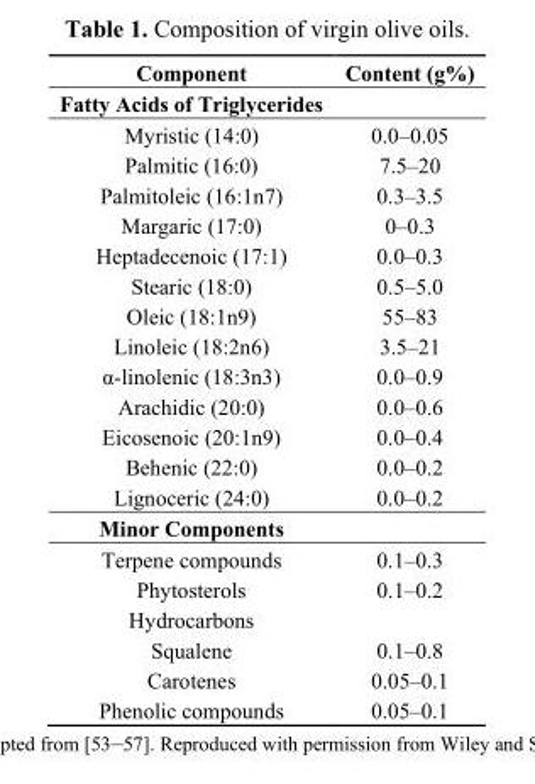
<table><thead><tr><td>Component</td><td>Content (g%)</td></tr></thead><tbody><tr><td colspan="2">Fatty Acids of Triglycerides</td></tr><tr><td>Myristic (14:0)</td><td>0.0–0.05</td></tr><tr><td>Palmitic (16:0)</td><td>7.5–20</td></tr><tr><td>Palmitoleic (16:1n7)</td><td>0.3–3.5</td></tr><tr><td>Margaric (17:0)</td><td>0–0.3</td></tr><tr><td>Heptadecenoic (17:1)</td><td>0.0–0.3</td></tr><tr><td>Stearic (18:0)</td><td>0.5–5.0</td></tr><tr><td>Oleic (18:1n9)</td><td>55–83</td></tr><tr><td>Linoleic (18:2n6)</td><td>3.5–21</td></tr><tr><td>α-linolenic (18:3n3)</td><td>0.0–0.9</td></tr><tr><td>Arachidic (20:0)</td><td>0.0–0.6</td></tr><tr><td>Eicosenoic (20:1n9)</td><td>0.0–0.4</td></tr><tr><td>Behenic (22:0)</td><td>0.0–0.2</td></tr><tr><td>Lignoceric (24:0)</td><td>0.0–0.2</td></tr><tr><td colspan="2">Minor Components</td></tr><tr><td>Terpene compounds</td><td>0.1–0.3</td></tr><tr><td>Phytosterols</td><td>0.1–0.2</td></tr><tr><td colspan="2">Hydrocarbons</td></tr><tr><td>Squalene</td><td>0.1–0.8</td></tr><tr><td>Carotenes</td><td>0.05–0.1</td></tr><tr><td>Phenolic compounds</td><td>0.05–0.1</td></tr></tbody></table>